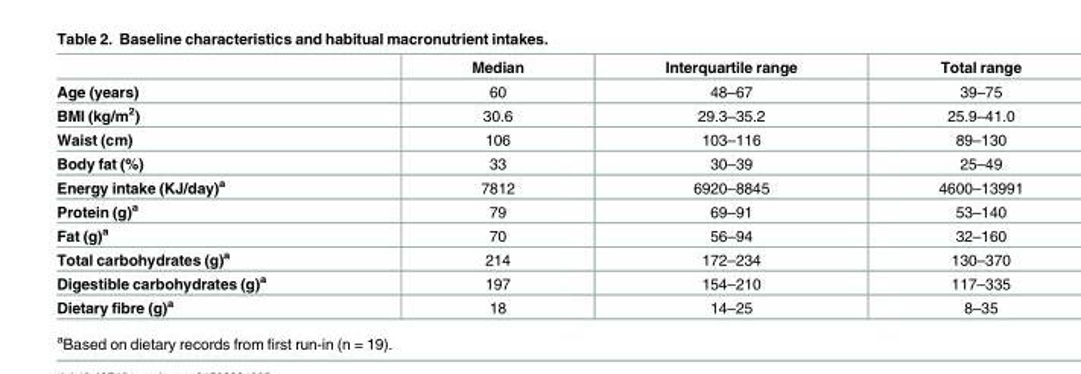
<table><thead><tr><td></td><td>Median</td><td>Interquartile range</td><td>Total range</td></tr></thead><tbody><tr><td>Age (years)</td><td>60</td><td>48–67</td><td>39–75</td></tr><tr><td>BMI (kg/m<sup>2</sup>)</td><td>30.6</td><td>29.3–35.2</td><td>25.9–41.0</td></tr><tr><td>Waist (cm)</td><td>106</td><td>103–116</td><td>89–130</td></tr><tr><td>Body fat (%)</td><td>33</td><td>30–39</td><td>25–49</td></tr><tr><td>Energy intake (KJ/day)<sup>a</sup></td><td>7812</td><td>6920–8845</td><td>4600–13991</td></tr><tr><td>Protein (g)<sup>a</sup></td><td>79</td><td>69–91</td><td>53–140</td></tr><tr><td>Fat (g)<sup>a</sup></td><td>70</td><td>56–94</td><td>32–160</td></tr><tr><td>Total carbohydrates (g)<sup>a</sup></td><td>214</td><td>172–234</td><td>130–370</td></tr><tr><td>Digestible carbohydrates (g)<sup>a</sup></td><td>197</td><td>154–210</td><td>117–335</td></tr><tr><td>Dietary fibre (g)<sup>a</sup></td><td>18</td><td>14–25</td><td>8–35</td></tr></tbody></table>